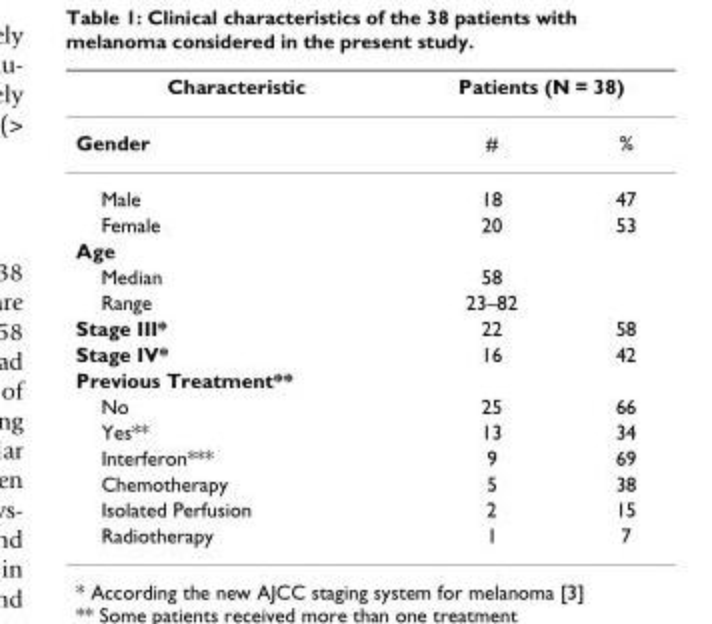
<table><thead><tr><td rowspan="2">Characteristic Gender</td><td colspan="2">Patients (N = 38)</td></tr><tr><td>#</td><td>%</td></tr></thead><tbody><tr><td>Male</td><td>18</td><td>47</td></tr><tr><td>Female</td><td>20</td><td>53</td></tr><tr><td colspan="3">Age</td></tr><tr><td>Median</td><td>58</td><td></td></tr><tr><td>Range</td><td>23–82</td><td></td></tr><tr><td>Stage III*</td><td>22</td><td>58</td></tr><tr><td>Stage IV*</td><td>16</td><td>42</td></tr><tr><td colspan="3">Previous Treatment**</td></tr><tr><td>No</td><td>25</td><td>66</td></tr><tr><td>Yes**</td><td>13</td><td>34</td></tr><tr><td>Interferon***</td><td>9</td><td>69</td></tr><tr><td>Chemotherapy</td><td>5</td><td>38</td></tr><tr><td>Isolated Perfusion</td><td>2</td><td>15</td></tr><tr><td>Radiotherapy</td><td>1</td><td>7</td></tr></tbody></table>